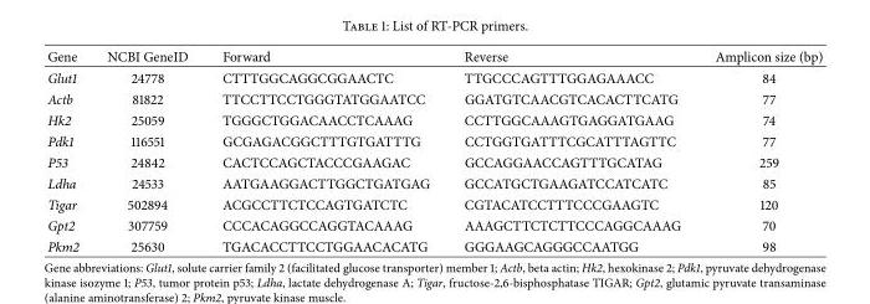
<table><thead><tr><td>Gene</td><td>NCBI GeneID</td><td>Forward</td><td>Reverse</td><td>Amplicon size (bp)</td></tr></thead><tbody><tr><td>Glut1</td><td>24778</td><td>CTTTGGCAGGCGGAACTC</td><td>TTGCCCAGTTTGGAGAAACC</td><td>84</td></tr><tr><td>Actb</td><td>81822</td><td>TTCCTTCCTGGGTATGGAATCC</td><td>GGATGTCAACGTCACACTTCATG</td><td>77</td></tr><tr><td>Hk2</td><td>25059</td><td>TGGGCTGGACAACCTCAAAG</td><td>CCTTGGCAAAGTGAGGATGAAG</td><td>74</td></tr><tr><td>Pdk1</td><td>116551</td><td>GCGAGACGGCTTTGTGATTTG</td><td>CCTGGTGATTTCGCATTTAGTTC</td><td>77</td></tr><tr><td>P53</td><td>24842</td><td>CACTCCAGCTACCCGAAGAC</td><td>GCCAGGAACCAGTTTGCATAG</td><td>259</td></tr><tr><td>Ldha</td><td>24533</td><td>AATGAAGGACTTGGCTGATGAG</td><td>GCCATGCTGAAGATCCATCATC</td><td>85</td></tr><tr><td>Tigar</td><td>502894</td><td>ACGCCTTCTCCAGTGATCTC</td><td>CGTACATCCTTTCCCGAAGTC</td><td>120</td></tr><tr><td>Gpt2</td><td>307759</td><td>CCCACAGGCCAGGTACAAAG</td><td>AAAGCTTCTCTTCCCAGGCAAAG</td><td>70</td></tr><tr><td>Pkm2</td><td>25630</td><td>TGACACCTTCCTGGAACACATG</td><td>GGGAAGCAGGGCCAATGG</td><td>98</td></tr></tbody></table>